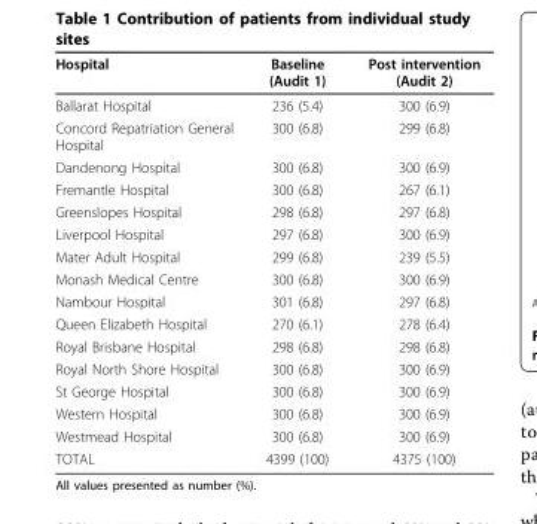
<table><thead><tr><td>Hospital</td><td>Baseline (Audit 1)</td><td>Post intervention (Audit 2)</td></tr></thead><tbody><tr><td>Ballarat Hospital</td><td>236 (5.4)</td><td>300 (6.9)</td></tr><tr><td>Concord Repatriation General Hospital</td><td>300 (6.8)</td><td>299 (6.8)</td></tr><tr><td>Dandenong Hospital</td><td>300 (6.8)</td><td>300 (6.9)</td></tr><tr><td>Fremantle Hospital</td><td>300 (6.8)</td><td>267 (6.1)</td></tr><tr><td>Greenslopes Hospital</td><td>298 (6.8)</td><td>297 (6.8)</td></tr><tr><td>Liverpool Hospital</td><td>297 (6.8)</td><td>300 (6.9)</td></tr><tr><td>Mater Adult Hospital</td><td>299 (6.8)</td><td>239 (5.5)</td></tr><tr><td>Monash Medical Centre</td><td>300 (6.8)</td><td>300 (6.9)</td></tr><tr><td>Nambour Hospital</td><td>301 (6.8)</td><td>297 (6.8)</td></tr><tr><td>Queen Elizabeth Hospital</td><td>270 (6.1)</td><td>278 (6.4)</td></tr><tr><td>Royal Brisbane Hospital</td><td>298 (6.8)</td><td>298 (6.8)</td></tr><tr><td>Royal North Shore Hospital</td><td>300 (6.8)</td><td>300 (6.9)</td></tr><tr><td>St George Hospital</td><td>300 (6.8)</td><td>300 (6.9)</td></tr><tr><td>Western Hospital</td><td>300 (6.8)</td><td>300 (6.9)</td></tr><tr><td>Westmead Hospital</td><td>300 (6.8)</td><td>300 (6.9)</td></tr><tr><td>TOTAL</td><td>4399 (100)</td><td>4375 (100)</td></tr></tbody></table>